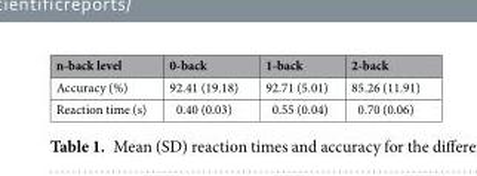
<table><thead><tr><td>n-back level</td><td>0-back</td><td>1-back</td><td>2-back</td></tr></thead><tbody><tr><td>Accuracy (%)</td><td>92.41 (19.18)</td><td>92.71 (5.01)</td><td>85.26 (11.91)</td></tr><tr><td>Reaction time (s)</td><td>0.40 (0.03)</td><td>0.55 (0.04)</td><td>0.70 (0.06)</td></tr></tbody></table>